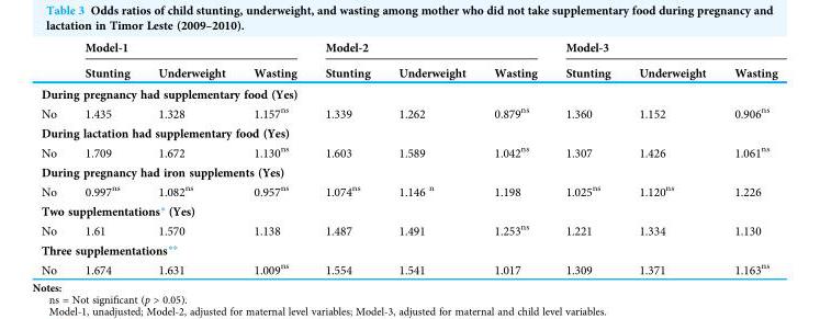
<table><thead><tr><td rowspan="2"></td><td colspan="3">Model-1</td><td colspan="3">Model-2</td><td colspan="3">Model-3</td></tr><tr><td>Stunting</td><td>Underweight</td><td>Wasting</td><td>Stunting</td><td>Underweight</td><td>Wasting</td><td>Stunting</td><td>Underweight</td><td>Wasting</td></tr></thead><tbody><tr><td colspan="10">During pregnancy had supplementary food (Yes)</td></tr><tr><td>No</td><td>1.435</td><td>1.328</td><td>1.157<sup>ns</sup></td><td>1.339</td><td>1.262</td><td>0.879<sup>ns</sup></td><td>1.360</td><td>1.152</td><td>0.906<sup>ns</sup></td></tr><tr><td colspan="10">During lactation had supplementary food (Yes)</td></tr><tr><td>No</td><td>1.709</td><td>1.672</td><td>1.130<sup>ns</sup></td><td>1.603</td><td>1.589</td><td>1.042<sup>ns</sup></td><td>1.307</td><td>1.426</td><td>1.061<sup>ns</sup></td></tr><tr><td colspan="10">During pregnancy had iron supplements (Yes)</td></tr><tr><td>No</td><td>0.997<sup>ns</sup></td><td>1.082<sup>ns</sup></td><td>0.957<sup>ns</sup></td><td>1.074<sup>ns</sup></td><td>1.146 <sup>n</sup></td><td>1.198</td><td>1.025<sup>ns</sup></td><td>1.120<sup>ns</sup></td><td>1.226</td></tr><tr><td colspan="10">Two supplementations* (Yes)</td></tr><tr><td>No</td><td>1.61</td><td>1.570</td><td>1.138</td><td>1.487</td><td>1.491</td><td>1.253<sup>ns</sup></td><td>1.221</td><td>1.334</td><td>1.130</td></tr><tr><td colspan="10">Three supplementations**</td></tr><tr><td>No</td><td>1.674</td><td>1.631</td><td>1.009<sup>ns</sup></td><td>1.554</td><td>1.541</td><td>1.017</td><td>1.309</td><td>1.371</td><td>1.163<sup>ns</sup></td></tr></tbody></table>